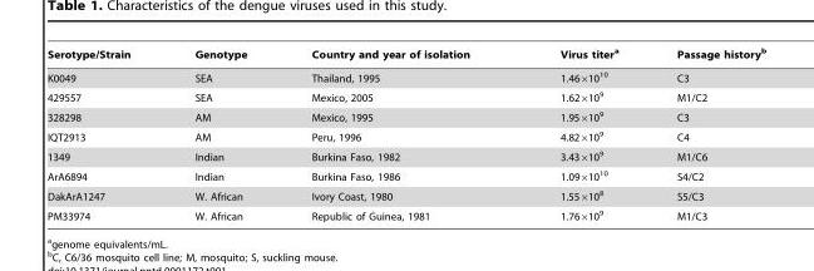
<table><thead><tr><td>Serotype/Strain</td><td>Genotype</td><td>Country and year of isolation</td><td>Virus titer<sup>a</sup></td><td>Passage history<sup>b</sup></td></tr></thead><tbody><tr><td>K0049</td><td>SEA</td><td>Thailand, 1995</td><td>1.46×10<sup>10</sup></td><td>C3</td></tr><tr><td>429557</td><td>SEA</td><td>Mexico, 2005</td><td>1.62×10<sup>9</sup></td><td>M1/C2</td></tr><tr><td>328298</td><td>AM</td><td>Mexico, 1995</td><td>1.95×10<sup>9</sup></td><td>C3</td></tr><tr><td>IQT2913</td><td>AM</td><td>Peru, 1996</td><td>4.82×10<sup>9</sup></td><td>C4</td></tr><tr><td>1349</td><td>Indian</td><td>Burkina Faso, 1982</td><td>3.43×10<sup>9</sup></td><td>M1/C6</td></tr><tr><td>ArA6894</td><td>Indian</td><td>Burkina Faso, 1986</td><td>1.09×10<sup>10</sup></td><td>S4/C2</td></tr><tr><td>DakArA1247</td><td>W. African</td><td>Ivory Coast, 1980</td><td>1.55×10<sup>8</sup></td><td>S5/C3</td></tr><tr><td>PM33974</td><td>W. African</td><td>Republic of Guinea, 1981</td><td>1.76×10<sup>9</sup></td><td>M1/C3</td></tr></tbody></table>